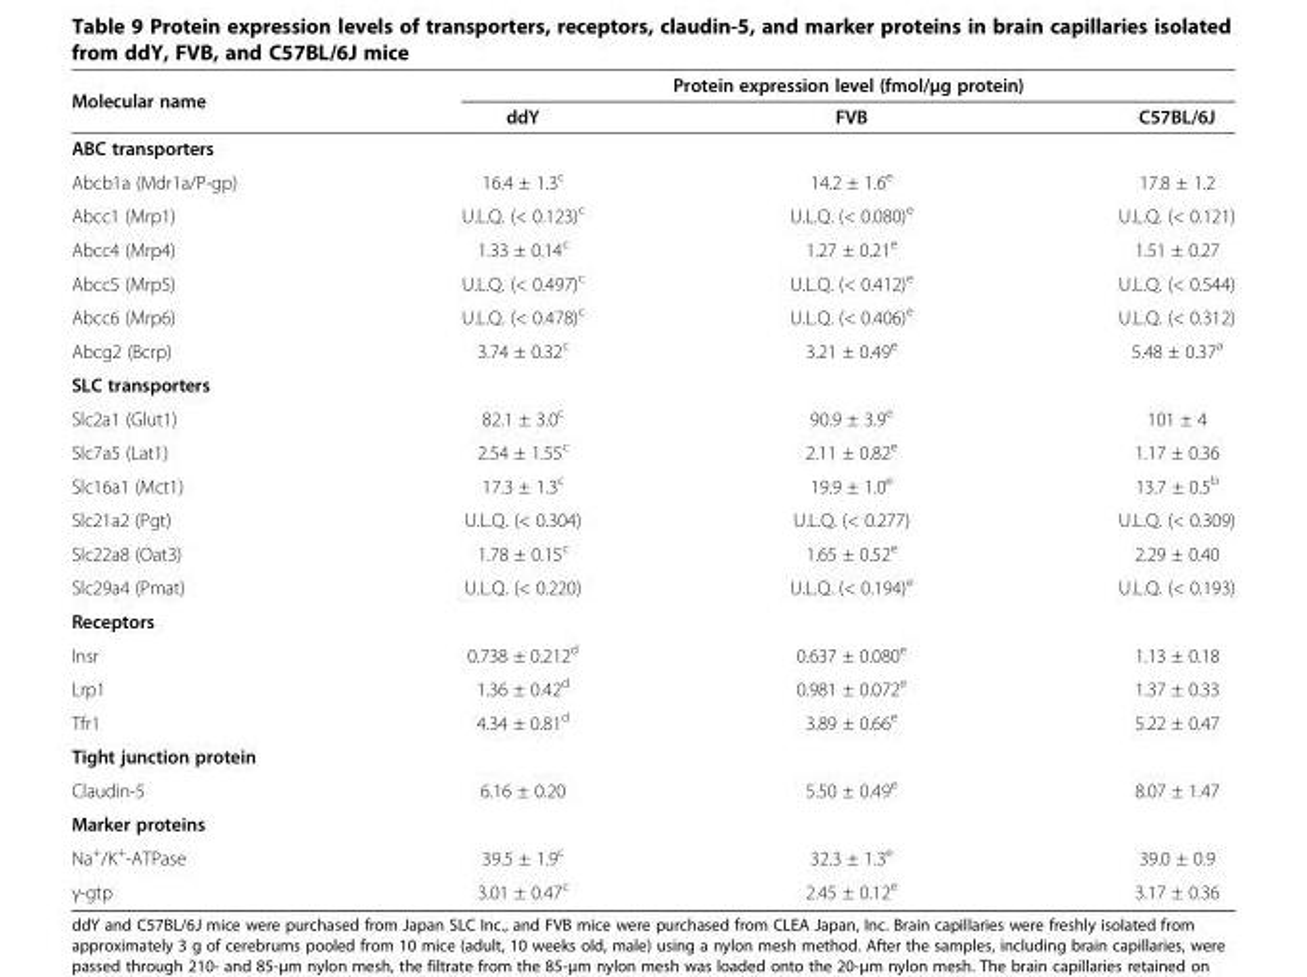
<table><thead><tr><td rowspan="2">Molecular name</td><td colspan="3">Protein expression level (fmol/μg protein)</td></tr><tr><td>ddY</td><td>FVB</td><td>C57BL/6J</td></tr></thead><tbody><tr><td colspan="4">ABC transporters</td></tr><tr><td>Abcb1a (Mdr1a/P-gp)</td><td>16.4 ± 1.3<sup>c</sup></td><td>14.2 ± 1.6<sup>e</sup></td><td>17.8 ± 1.2</td></tr><tr><td>Abcc1 (Mrp1)</td><td>U.L.Q. (&lt; 0.123)<sup>c</sup></td><td>U.L.Q. (&lt; 0.080)<sup>e</sup></td><td>U.L.Q. (&lt; 0.121)</td></tr><tr><td>Abcc4 (Mrp4)</td><td>1.33 ± 0.14<sup>c</sup></td><td>1.27 ± 0.21<sup>e</sup></td><td>1.51 ± 0.27</td></tr><tr><td>Abcc5 (Mrp5)</td><td>U.L.Q. (&lt; 0.497)<sup>c</sup></td><td>U.L.Q. (&lt; 0.412)<sup>e</sup></td><td>U.L.Q. (&lt; 0.544)</td></tr><tr><td>Abcc6 (Mrp6)</td><td>U.L.Q. (&lt; 0.478)<sup>c</sup></td><td>U.L.Q. (&lt; 0.406)<sup>e</sup></td><td>U.L.Q. (&lt; 0.312)</td></tr><tr><td>Abcg2 (Bcrp)</td><td>3.74 ± 0.32<sup>c</sup></td><td>3.21 ± 0.49<sup>e</sup></td><td>5.48 ± 0.37<sup>a</sup></td></tr><tr><td colspan="4">SLC transporters</td></tr><tr><td>Slc2a1 (Glut1)</td><td>82.1 ± 3.0<sup>c</sup></td><td>90.9 ± 3.9<sup>e</sup></td><td>101 ± 4</td></tr><tr><td>Slc7a5 (Lat1)</td><td>2.54 ± 1.55<sup>c</sup></td><td>2.11 ± 0.82<sup>e</sup></td><td>1.17 ± 0.36</td></tr><tr><td>Slc16a1 (Mct1)</td><td>17.3 ± 1.3<sup>c</sup></td><td>19.9 ± 1.0<sup>e</sup></td><td>13.7 ± 0.5<sup>b</sup></td></tr><tr><td>Slc21a2 (Pgt)</td><td>U.L.Q. (&lt; 0.304)</td><td>U.L.Q. (&lt; 0.277)</td><td>U.L.Q. (&lt; 0.309)</td></tr><tr><td>Slc22a8 (Oat3)</td><td>1.78 ± 0.15<sup>c</sup></td><td>1.65 ± 0.52<sup>e</sup></td><td>2.29 ± 0.40</td></tr><tr><td>Slc29a4 (Pmat)</td><td>U.L.Q. (&lt; 0.220)</td><td>U.L.Q. (&lt; 0.194)<sup>e</sup></td><td>U.L.Q. (&lt; 0.193)</td></tr><tr><td colspan="4">Receptors</td></tr><tr><td>Insr</td><td>0.738 ± 0.212<sup>d</sup></td><td>0.637 ± 0.080<sup>e</sup></td><td>1.13 ± 0.18</td></tr><tr><td>Lrp1</td><td>1.36 ± 0.42<sup>d</sup></td><td>0.981 ± 0.072<sup>e</sup></td><td>1.37 ± 0.33</td></tr><tr><td>Tfr1</td><td>4.34 ± 0.81<sup>d</sup></td><td>3.89 ± 0.66<sup>e</sup></td><td>5.22 ± 0.47</td></tr><tr><td colspan="4">Tight junction protein</td></tr><tr><td>Claudin-5</td><td>6.16 ± 0.20</td><td>5.50 ± 0.49<sup>e</sup></td><td>8.07 ± 1.47</td></tr><tr><td colspan="4">Marker proteins</td></tr><tr><td>Na<sup>+</sup>/K<sup>+</sup>-ATPase</td><td>39.5 ± 1.9<sup>c</sup></td><td>32.3 ± 1.3<sup>e</sup></td><td>39.0 ± 0.9</td></tr><tr><td>γ-gtp</td><td>3.01 ± 0.47<sup>c</sup></td><td>2.45 ± 0.12<sup>e</sup></td><td>3.17 ± 0.36</td></tr></tbody></table>